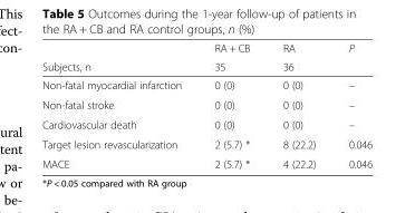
<table><thead><tr><td rowspan="2">Subjects, n</td><td rowspan="2">RA + CB 35</td><td rowspan="2">RA 36</td><td rowspan="2">P</td></tr><tr></tr></thead><tbody><tr><td>Non-fatal myocardial infarction</td><td>0 (0)</td><td>0 (0)</td><td>–</td></tr><tr><td>Non-fatal stroke</td><td>0 (0)</td><td>0 (0)</td><td>–</td></tr><tr><td>Cardiovascular death</td><td>0 (0)</td><td>0 (0)</td><td>–</td></tr><tr><td>Target lesion revascularization</td><td>2 (5.7) *</td><td>8 (22.2)</td><td>0.046</td></tr><tr><td>MACE</td><td>2 (5.7) *</td><td>4 (22.2)</td><td>0.046</td></tr></tbody></table>